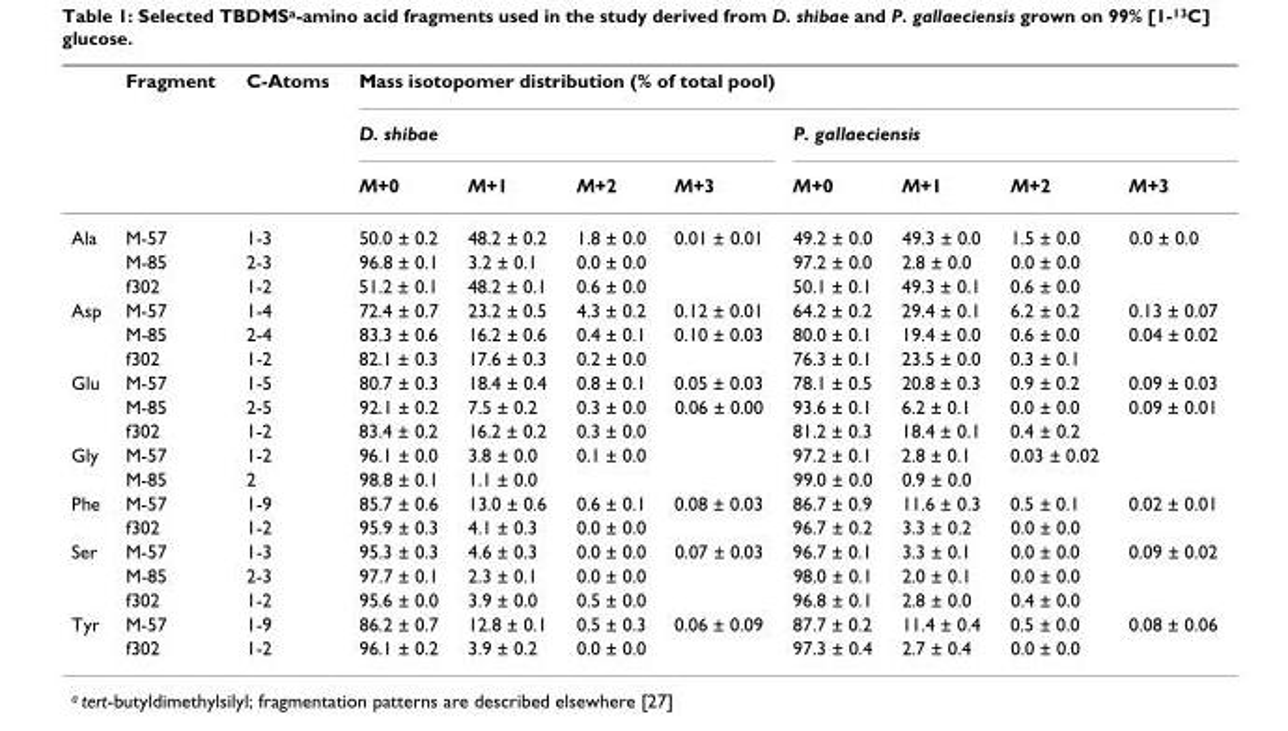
<table><thead><tr><td rowspan="3"></td><td rowspan="3">Fragment</td><td rowspan="3">C-Atoms</td><td colspan="8">Mass isotopomer distribution (% of total pool)</td></tr><tr><td colspan="4">D. shibae</td><td colspan="4">P. gallaeciensis</td></tr><tr><td>M+0</td><td>M+1</td><td>M+2</td><td>M+3</td><td>M+0</td><td>M+1</td><td>M+2</td><td>M+3</td></tr></thead><tbody><tr><td rowspan="3">Ala</td><td>M-57</td><td>1-3</td><td>50.0 ± 0.2</td><td>48.2 ± 0.2</td><td>1.8 ± 0.0</td><td>0.01 ± 0.01</td><td>49.2 ± 0.0</td><td>49.3 ± 0.0</td><td>1.5 ± 0.0</td><td>0.0 ± 0.0</td></tr><tr><td>M-85</td><td>2-3</td><td>96.8 ± 0.1</td><td>3.2 ± 0.1</td><td>0.0 ± 0.0</td><td></td><td>97.2 ± 0.0</td><td>2.8 ± 0.0</td><td>0.0 ± 0.0</td><td></td></tr><tr><td>f302</td><td>1-2</td><td>51.2 ± 0.1</td><td>48.2 ± 0.1</td><td>0.6 ± 0.0</td><td></td><td>50.1 ± 0.1</td><td>49.3 ± 0.1</td><td>0.6 ± 0.0</td><td></td></tr><tr><td rowspan="3">Asp</td><td>M-57</td><td>1-4</td><td>72.4 ± 0.7</td><td>23.2 ± 0.5</td><td>4.3 ± 0.2</td><td>0.12 ± 0.01</td><td>64.2 ± 0.2</td><td>29.4 ± 0.1</td><td>6.2 ± 0.2</td><td>0.13 ± 0.07</td></tr><tr><td>M-85</td><td>2-4</td><td>83.3 ± 0.6</td><td>16.2 ± 0.6</td><td>0.4 ± 0.1</td><td>0.10 ± 0.03</td><td>80.0 ± 0.1</td><td>19.4 ± 0.0</td><td>0.6 ± 0.0</td><td>0.04 ± 0.02</td></tr><tr><td>f302</td><td>1-2</td><td>82.1 ± 0.3</td><td>17.6 ± 0.3</td><td>0.2 ± 0.0</td><td></td><td>76.3 ± 0.1</td><td>23.5 ± 0.0</td><td>0.3 ± 0.1</td><td></td></tr><tr><td rowspan="3">Glu</td><td>M-57</td><td>1-5</td><td>80.7 ± 0.3</td><td>18.4 ± 0.4</td><td>0.8 ± 0.1</td><td>0.05 ± 0.03</td><td>78.1 ± 0.5</td><td>20.8 ± 0.3</td><td>0.9 ± 0.2</td><td>0.09 ± 0.03</td></tr><tr><td>M-85</td><td>2-5</td><td>92.1 ± 0.2</td><td>7.5 ± 0.2</td><td>0.3 ± 0.0</td><td>0.06 ± 0.00</td><td>93.6 ± 0.1</td><td>6.2 ± 0.1</td><td>0.0 ± 0.0</td><td>0.09 ± 0.01</td></tr><tr><td>f302</td><td>1-2</td><td>83.4 ± 0.2</td><td>16.2 ± 0.2</td><td>0.3 ± 0.0</td><td></td><td>81.2 ± 0.3</td><td>18.4 ± 0.1</td><td>0.4 ± 0.2</td><td></td></tr><tr><td rowspan="2">Gly</td><td>M-57</td><td>1-2</td><td>96.1 ± 0.0</td><td>3.8 ± 0.0</td><td>0.1 ± 0.0</td><td></td><td>97.2 ± 0.1</td><td>2.8 ± 0.1</td><td>0.03 ± 0.02</td><td></td></tr><tr><td>M-85</td><td>2</td><td>98.8 ± 0.1</td><td>1.1 ± 0.0</td><td></td><td></td><td>99.0 ± 0.0</td><td>0.9 ± 0.0</td><td></td><td></td></tr><tr><td rowspan="2">Phe</td><td>M-57</td><td>1-9</td><td>85.7 ± 0.6</td><td>13.0 ± 0.6</td><td>0.6 ± 0.1</td><td>0.08 ± 0.03</td><td>86.7 ± 0.9</td><td>11.6 ± 0.3</td><td>0.5 ± 0.1</td><td>0.02 ± 0.01</td></tr><tr><td>f302</td><td>1-2</td><td>95.9 ± 0.3</td><td>4.1 ± 0.3</td><td>0.0 ± 0.0</td><td></td><td>96.7 ± 0.2</td><td>3.3 ± 0.2</td><td>0.0 ± 0.0</td><td></td></tr><tr><td rowspan="3">Ser</td><td>M-57</td><td>1-3</td><td>95.3 ± 0.3</td><td>4.6 ± 0.3</td><td>0.0 ± 0.0</td><td>0.07 ± 0.03</td><td>96.7 ± 0.1</td><td>3.3 ± 0.1</td><td>0.0 ± 0.0</td><td>0.09 ± 0.02</td></tr><tr><td>M-85</td><td>2-3</td><td>97.7 ± 0.1</td><td>2.3 ± 0.1</td><td>0.0 ± 0.0</td><td></td><td>98.0 ± 0.1</td><td>2.0 ± 0.1</td><td>0.0 ± 0.0</td><td></td></tr><tr><td>f302</td><td>1-2</td><td>95.6 ± 0.0</td><td>3.9 ± 0.0</td><td>0.5 ± 0.0</td><td></td><td>96.8 ± 0.1</td><td>2.8 ± 0.0</td><td>0.4 ± 0.0</td><td></td></tr><tr><td rowspan="2">Tyr</td><td>M-57</td><td>1-9</td><td>86.2 ± 0.7</td><td>12.8 ± 0.1</td><td>0.5 ± 0.3</td><td>0.06 ± 0.09</td><td>87.7 ± 0.2</td><td>11.4 ± 0.4</td><td>0.5 ± 0.0</td><td>0.08 ± 0.06</td></tr><tr><td>f302</td><td>1-2</td><td>96.1 ± 0.2</td><td>3.9 ± 0.2</td><td>0.0 ± 0.0</td><td></td><td>97.3 ± 0.4</td><td>2.7 ± 0.4</td><td>0.0 ± 0.0</td><td></td></tr></tbody></table>